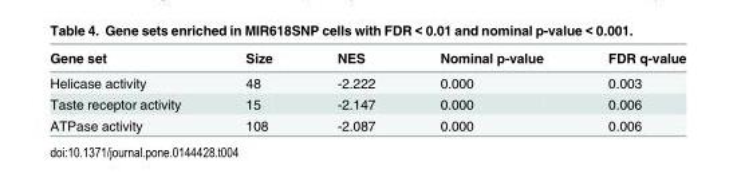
<table><thead><tr><td>Gene set</td><td>Size</td><td>NES</td><td>Nominal p-value</td><td>FDR q-value</td></tr></thead><tbody><tr><td>Helicase activity</td><td>48</td><td>-2.222</td><td>0.000</td><td>0.003</td></tr><tr><td>Taste receptor activity</td><td>15</td><td>-2.147</td><td>0.000</td><td>0.006</td></tr><tr><td>ATPase activity</td><td>108</td><td>-2.087</td><td>0.000</td><td>0.006</td></tr></tbody></table>